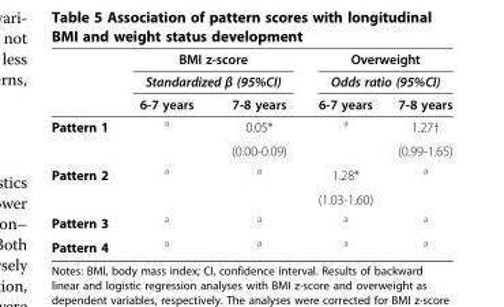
<table><thead><tr><td rowspan="3"></td><td rowspan="2" colspan="2">BMI z-score Standardized β (95%CI)</td><td rowspan="2" colspan="2">Overweight Odds ratio (95%CI)</td></tr><tr></tr><tr><td>6-7 years</td><td>7-8 years</td><td>6-7 years</td><td>7-8 years</td></tr></thead><tbody><tr><td rowspan="2">Pattern 1</td><td rowspan="2"><sup>a</sup></td><td>0.05*</td><td rowspan="2"><sup>a</sup></td><td>1.27†</td></tr><tr><td>(0.00-0.09)</td><td>(0.99-1.65)</td></tr><tr><td rowspan="2">Pattern 2</td><td rowspan="2"><sup>a</sup></td><td rowspan="2"><sup>a</sup></td><td>1.28*</td><td rowspan="2"><sup>a</sup></td></tr><tr><td>(1.03-1.60)</td></tr><tr><td>Pattern 3</td><td><sup>a</sup></td><td><sup>a</sup></td><td><sup>a</sup></td><td><sup>a</sup></td></tr><tr><td>Pattern 4</td><td><sup>a</sup></td><td><sup>a</sup></td><td><sup>a</sup></td><td><sup>a</sup></td></tr></tbody></table>